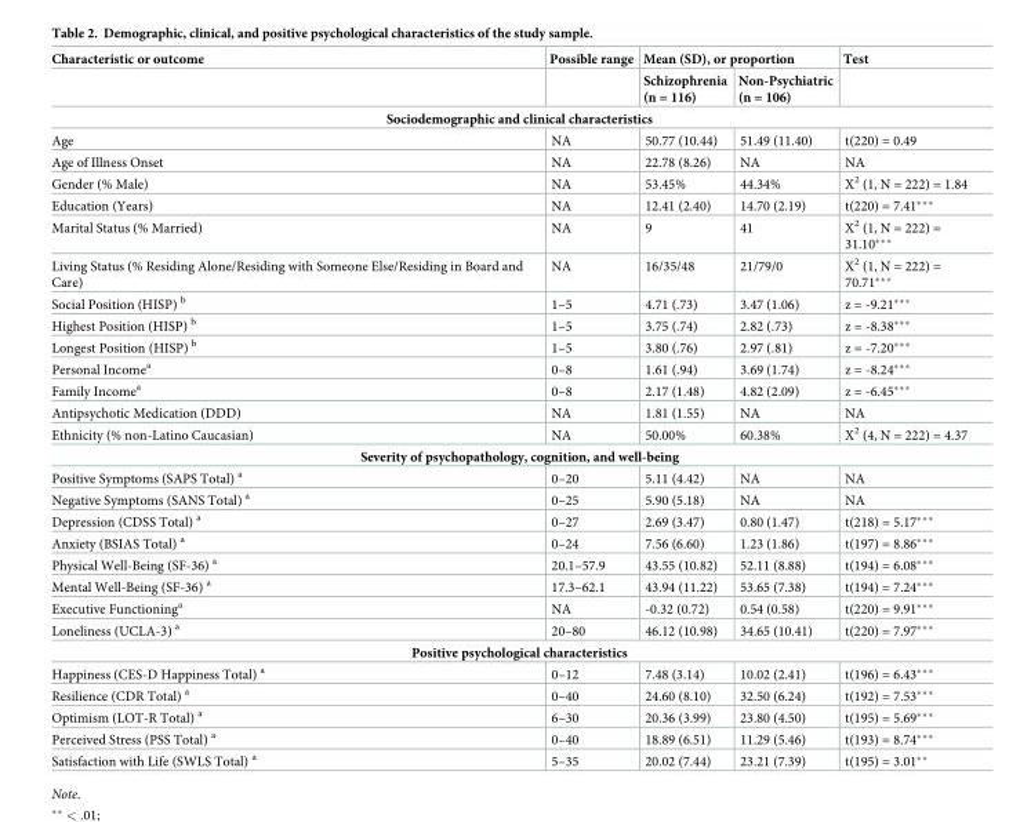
<table><thead><tr><td rowspan="2">Characteristic or outcome</td><td rowspan="2">Possible range</td><td colspan="2">Mean (SD), or proportion</td><td rowspan="2">Test</td></tr><tr><td>Schizophrenia (n = 116)</td><td>Non-Psychiatric (n = 106)</td></tr></thead><tbody><tr><td colspan="5">Sociodemographic and clinical characteristics</td></tr><tr><td>Age</td><td>NA</td><td>50.77 (10.44)</td><td>51.49 (11.40)</td><td>t(220) = 0.49</td></tr><tr><td>Age of Illness Onset</td><td>NA</td><td>22.78 (8.26)</td><td>NA</td><td>NA</td></tr><tr><td>Gender (% Male)</td><td>NA</td><td>53.45%</td><td>44.34%</td><td>X<sup>2</sup> (1, N = 222) = 1.84</td></tr><tr><td>Education (Years)</td><td>NA</td><td>12.41 (2.40)</td><td>14.70 (2.19)</td><td>t(220) = 7.41***</td></tr><tr><td>Marital Status (% Married)</td><td>NA</td><td>9</td><td>41</td><td>X<sup>2</sup> (1, N = 222) = 31.10***</td></tr><tr><td>Living Status (% Residing Alone/Residing with Someone Else/Residing in Board and Care)</td><td>NA</td><td>16/35/48</td><td>21/79/0</td><td>X<sup>2</sup> (1, N = 222) = 70.71***</td></tr><tr><td>Social Position (HISP) <sup>b</sup></td><td>1–5</td><td>4.71 (.73)</td><td>3.47 (1.06)</td><td>z = -9.21***</td></tr><tr><td>Highest Position (HISP) <sup>b</sup></td><td>1–5</td><td>3.75 (.74)</td><td>2.82 (.73)</td><td>z = -8.38***</td></tr><tr><td>Longest Position (HISP) <sup>b</sup></td><td>1–5</td><td>3.80 (.76)</td><td>2.97 (.81)</td><td>z = -7.20***</td></tr><tr><td>Personal Income<sup>a</sup></td><td>0–8</td><td>1.61 (.94)</td><td>3.69 (1.74)</td><td>z = -8.24***</td></tr><tr><td>Family Income<sup>a</sup></td><td>0–8</td><td>2.17 (1.48)</td><td>4.82 (2.09)</td><td>z = -6.45***</td></tr><tr><td>Antipsychotic Medication (DDD)</td><td>NA</td><td>1.81 (1.55)</td><td>NA</td><td>NA</td></tr><tr><td>Ethnicity (% non-Latino Caucasian)</td><td>NA</td><td>50.00%</td><td>60.38%</td><td>X<sup>2</sup> (4, N = 222) = 4.37</td></tr><tr><td colspan="5">Severity of psychopathology, cognition, and well-being</td></tr><tr><td>Positive Symptoms (SAPS Total) <sup>a</sup></td><td>0–20</td><td>5.11 (4.42)</td><td>NA</td><td>NA</td></tr><tr><td>Negative Symptoms (SANS Total) <sup>a</sup></td><td>0–25</td><td>5.90 (5.18)</td><td>NA</td><td>NA</td></tr><tr><td>Depression (CDSS Total) <sup>a</sup></td><td>0–27</td><td>2.69 (3.47)</td><td>0.80 (1.47)</td><td>t(218) = 5.17***</td></tr><tr><td>Anxiety (BSIAS Total) <sup>a</sup></td><td>0–24</td><td>7.56 (6.60)</td><td>1.23 (1.86)</td><td>t(197) = 8.86***</td></tr><tr><td>Physical Well-Being (SF-36) <sup>a</sup></td><td>20.1–57.9</td><td>43.55 (10.82)</td><td>52.11 (8.88)</td><td>t(194) = 6.08***</td></tr><tr><td>Mental Well-Being (SF-36) <sup>a</sup></td><td>17.3–62.1</td><td>43.94 (11.22)</td><td>53.65 (7.38)</td><td>t(194) = 7.24***</td></tr><tr><td>Executive Functioning<sup>a</sup></td><td>NA</td><td>-0.32 (0.72)</td><td>0.54 (0.58)</td><td>t(220) = 9.91***</td></tr><tr><td>Loneliness (UCLA-3) <sup>a</sup></td><td>20–80</td><td>46.12 (10.98)</td><td>34.65 (10.41)</td><td>t(220) = 7.97***</td></tr><tr><td colspan="5">Positive psychological characteristics</td></tr><tr><td>Happiness (CES-D Happiness Total) <sup>a</sup></td><td>0–12</td><td>7.48 (3.14)</td><td>10.02 (2.41)</td><td>t(196) = 6.43***</td></tr><tr><td>Resilience (CDR Total) <sup>a</sup></td><td>0–40</td><td>24.60 (8.10)</td><td>32.50 (6.24)</td><td>t(192) = 7.53***</td></tr><tr><td>Optimism (LOT-R Total) <sup>a</sup></td><td>6–30</td><td>20.36 (3.99)</td><td>23.80 (4.50)</td><td>t(195) = 5.69***</td></tr><tr><td>Perceived Stress (PSS Total) <sup>a</sup></td><td>0–40</td><td>18.89 (6.51)</td><td>11.29 (5.46)</td><td>t(193) = 8.74***</td></tr><tr><td>Satisfaction with Life (SWLS Total) <sup>a</sup></td><td>5–35</td><td>20.02 (7.44)</td><td>23.21 (7.39)</td><td>t(195) = 3.01**</td></tr></tbody></table>